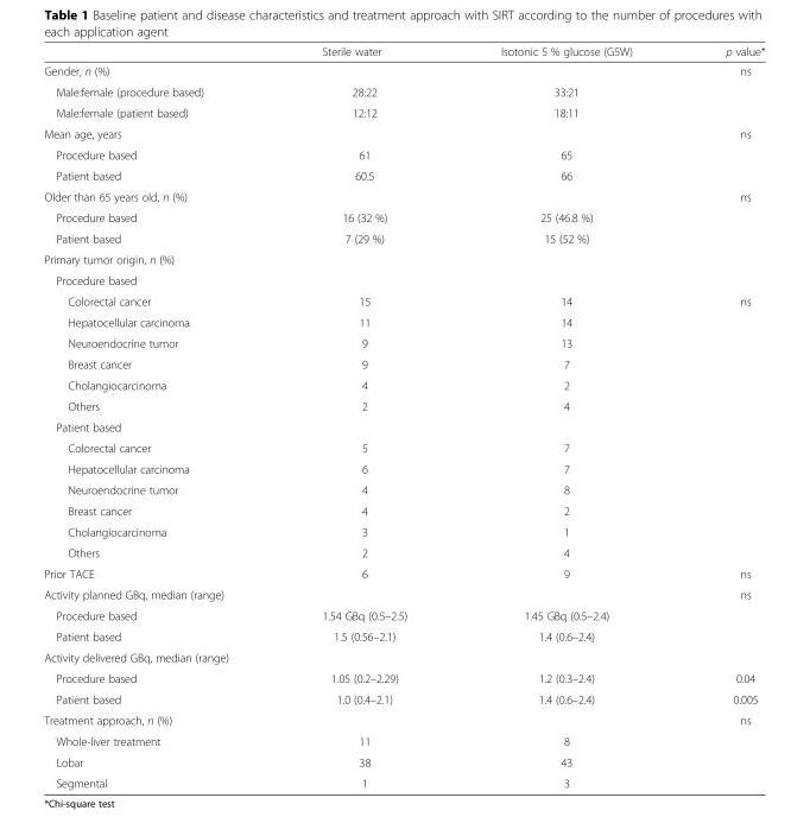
<table><thead><tr><td></td><td>Sterile water</td><td>Isotonic 5 % glucose (G5W)</td><td>p value*</td></tr></thead><tbody><tr><td>Gender, n (%)</td><td></td><td></td><td>ns</td></tr><tr><td>Male:female (procedure based)</td><td>28:22</td><td>33:21</td><td></td></tr><tr><td>Male:female (patient based)</td><td>12:12</td><td>18:11</td><td></td></tr><tr><td>Mean age, years</td><td></td><td></td><td>ns</td></tr><tr><td>Procedure based</td><td>61</td><td>65</td><td></td></tr><tr><td>Patient based</td><td>60.5</td><td>66</td><td></td></tr><tr><td>Older than 65 years old, n (%)</td><td></td><td></td><td>ns</td></tr><tr><td>Procedure based</td><td>16 (32 %)</td><td>25 (46.8 %)</td><td></td></tr><tr><td>Patient based</td><td>7 (29 %)</td><td>15 (52 %)</td><td></td></tr><tr><td colspan="4">Primary tumor origin, n (%)</td></tr><tr><td colspan="4">Procedure based</td></tr><tr><td>Colorectal cancer</td><td>15</td><td>14</td><td rowspan="13">ns</td></tr><tr><td>Hepatocellular carcinoma</td><td>11</td><td>14</td></tr><tr><td>Neuroendocrine tumor</td><td>9</td><td>13</td></tr><tr><td>Breast cancer</td><td>9</td><td>7</td></tr><tr><td>Cholangiocarcinoma</td><td>4</td><td>2</td></tr><tr><td>Others</td><td>2</td><td>4</td></tr><tr><td colspan="3">Patient based</td></tr><tr><td>Colorectal cancer</td><td>5</td><td>7</td></tr><tr><td>Hepatocellular carcinoma</td><td>6</td><td>7</td></tr><tr><td>Neuroendocrine tumor</td><td>4</td><td>8</td></tr><tr><td>Breast cancer</td><td>4</td><td>2</td></tr><tr><td>Cholangiocarcinoma</td><td>3</td><td>1</td></tr><tr><td>Others</td><td>2</td><td>4</td></tr><tr><td>Prior TACE</td><td>6</td><td>9</td><td>ns</td></tr><tr><td colspan="3">Activity planned GBq, median (range)</td><td rowspan="3">ns</td></tr><tr><td>Procedure based</td><td>1.54 GBq (0.5–2.5)</td><td>1.45 GBq (0.5–2.4)</td></tr><tr><td>Patient based</td><td>1.5 (0.56–2.1)</td><td>1.4 (0.6–2.4)</td></tr><tr><td colspan="4">Activity delivered GBq, median (range)</td></tr><tr><td>Procedure based</td><td>1.05 (0.2–2.29)</td><td>1.2 (0.3–2.4)</td><td>0.04</td></tr><tr><td>Patient based</td><td>1.0 (0.4–2.1)</td><td>1.4 (0.6–2.4)</td><td>0.005</td></tr><tr><td colspan="3">Treatment approach, n (%)</td><td rowspan="4">ns</td></tr><tr><td>Whole-liver treatment</td><td>11</td><td>8</td></tr><tr><td>Lobar</td><td>38</td><td>43</td></tr><tr><td>Segmental</td><td>1</td><td>3</td></tr></tbody></table>